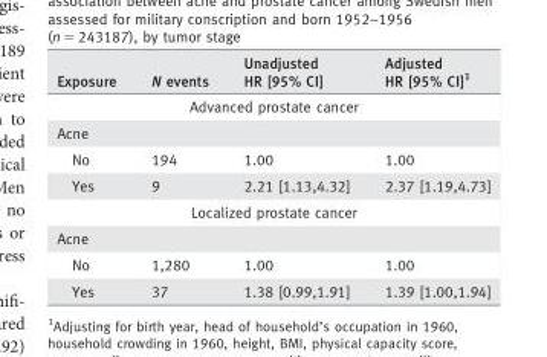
<table><thead><tr><td>Exposure</td><td>N events</td><td>Unadjusted HR [95% CI]</td><td>Adjusted HR [95% CI]1</td></tr></thead><tbody><tr><td colspan="4">Advanced prostate cancer</td></tr><tr><td colspan="4">Acne</td></tr><tr><td>No</td><td>194</td><td>1.00</td><td>1.00</td></tr><tr><td>Yes</td><td>9</td><td>2.21 [1.13,4.32]</td><td>2.37 [1.19,4.73]</td></tr><tr><td colspan="4">Localized prostate cancer</td></tr><tr><td colspan="4">Acne</td></tr><tr><td>No</td><td>1,280</td><td>1.00</td><td>1.00</td></tr><tr><td>Yes</td><td>37</td><td>1.38 [0.99,1.91]</td><td>1.39 [1.00,1.94]</td></tr></tbody></table>